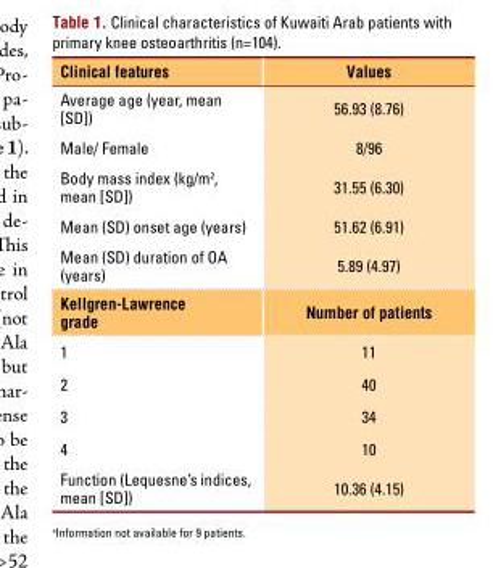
<table><thead><tr><td>Clinical features</td><td>Values</td></tr></thead><tbody><tr><td>Average age (year, mean [SD])</td><td>56.93 (8.76)</td></tr><tr><td>Male/ Female</td><td>8/96</td></tr><tr><td>Body mass index (kg/m<sup>2</sup>, mean [SD])</td><td>31.55 (6.30)</td></tr><tr><td>Mean (SD) onset age (years)</td><td>51.62 (6.91)</td></tr><tr><td>Mean (SD) duration of OA (years)</td><td>5.89 (4.97)</td></tr><tr><td>Kellgren-Lawrence grade</td><td>Number of patients</td></tr><tr><td>1</td><td>11</td></tr><tr><td>2</td><td>40</td></tr><tr><td>3</td><td>34</td></tr><tr><td>4</td><td>10</td></tr><tr><td>Function (Lequesne’s indices, mean [SD])</td><td>10.36 (4.15)</td></tr></tbody></table>